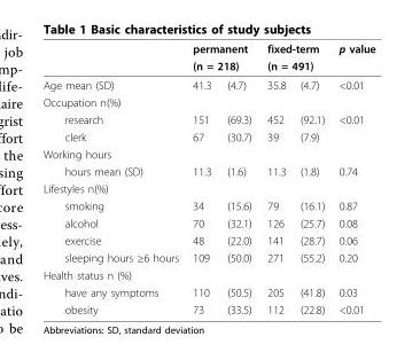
<table><thead><tr><td rowspan="3">Age mean (SD)</td><td rowspan="2" colspan="2">permanent (n = 218)</td><td rowspan="2" colspan="2">fixed-term (n = 491)</td><td rowspan="3">p value &lt;0.01</td></tr><tr></tr><tr><td>41.3</td><td>(4.7)</td><td>35.8</td><td>(4.7)</td></tr></thead><tbody><tr><td colspan="6">Occupation n(%)</td></tr><tr><td>research</td><td>151</td><td>(69.3)</td><td>452</td><td>(92.1)</td><td>&lt;0.01</td></tr><tr><td>clerk</td><td>67</td><td>(30.7)</td><td>39</td><td>(7.9)</td><td></td></tr><tr><td colspan="6">Working hours</td></tr><tr><td>hours mean (SD)</td><td>11.3</td><td>(1.6)</td><td>11.3</td><td>(1.8)</td><td>0.74</td></tr><tr><td colspan="6">Lifestyles n(%)</td></tr><tr><td>smoking</td><td>34</td><td>(15.6)</td><td>79</td><td>(16.1)</td><td>0.87</td></tr><tr><td>alcohol</td><td>70</td><td>(32.1)</td><td>126</td><td>(25.7)</td><td>0.08</td></tr><tr><td>exercise</td><td>48</td><td>(22.0)</td><td>141</td><td>(28.7)</td><td>0.06</td></tr><tr><td>sleeping hours ≥6 hours</td><td>109</td><td>(50.0)</td><td>271</td><td>(55.2)</td><td>0.20</td></tr><tr><td colspan="6">Health status n (%)</td></tr><tr><td>have any symptoms</td><td>110</td><td>(50.5)</td><td>205</td><td>(41.8)</td><td>0.03</td></tr><tr><td>obesity</td><td>73</td><td>(33.5)</td><td>112</td><td>(22.8)</td><td>&lt;0.01</td></tr></tbody></table>